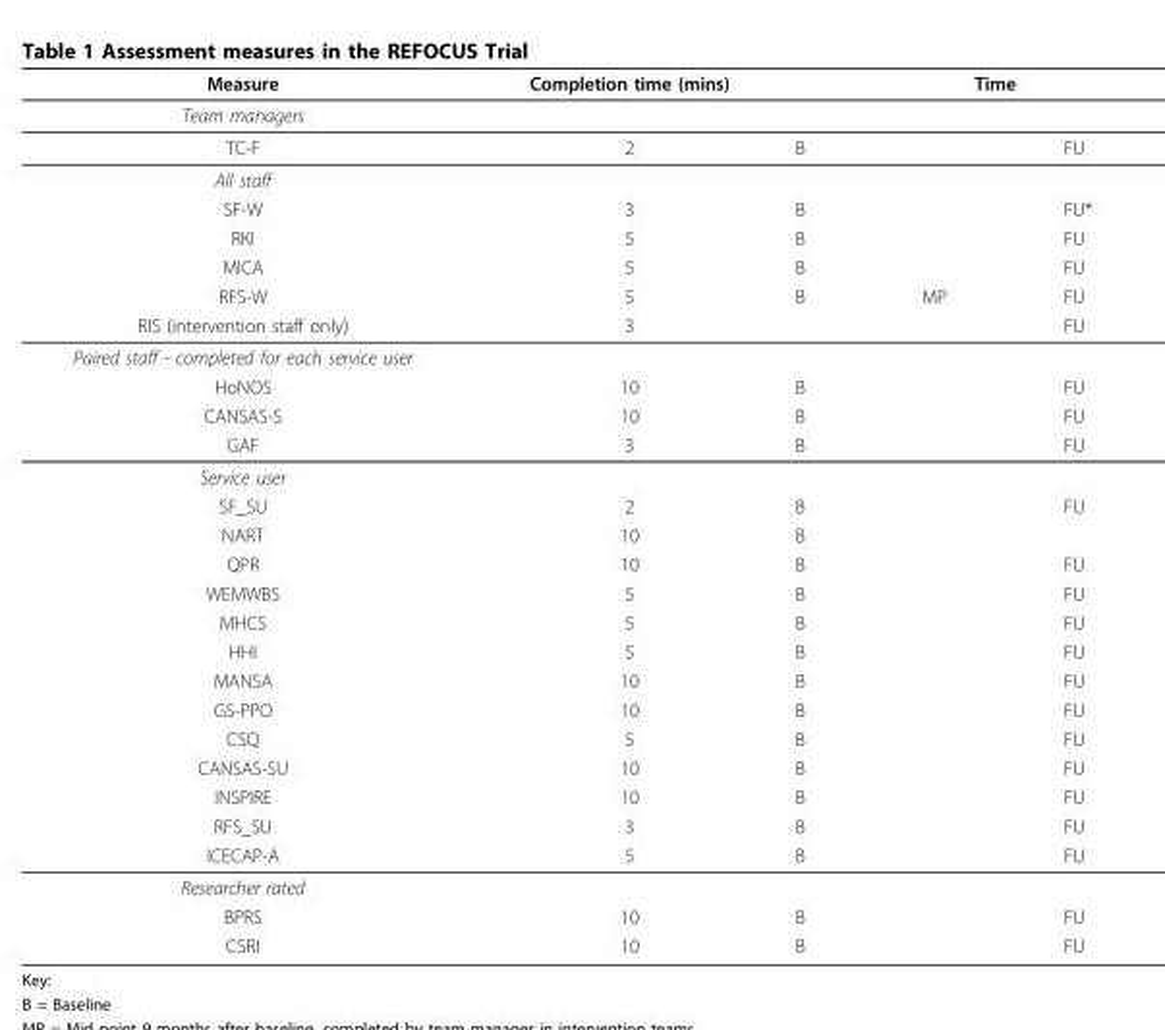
<table><thead><tr><td rowspan="2">Measure Team managers</td><td rowspan="2">Completion time (mins)</td><td colspan="3">Time</td></tr><tr><td></td><td></td><td></td></tr></thead><tbody><tr><td>TC-F</td><td>2</td><td>B</td><td></td><td>FU</td></tr><tr><td colspan="5">All staff</td></tr><tr><td>SF-W</td><td>3</td><td>B</td><td></td><td>FU*</td></tr><tr><td>RKI</td><td>5</td><td>B</td><td></td><td>FU</td></tr><tr><td>MICA</td><td>5</td><td>B</td><td></td><td>FU</td></tr><tr><td>RFS-W</td><td>5</td><td>B</td><td>MP</td><td>FU</td></tr><tr><td>RIS (intervention staff only)</td><td>3</td><td></td><td></td><td>FU</td></tr><tr><td colspan="5">Paired staff - completed for each service user</td></tr><tr><td>HoNOS</td><td>10</td><td>B</td><td></td><td>FU</td></tr><tr><td>CANSAS-S</td><td>10</td><td>B</td><td></td><td>FU</td></tr><tr><td>GAF</td><td>3</td><td>B</td><td></td><td>FU</td></tr><tr><td colspan="5">Service user</td></tr><tr><td>SF_SU</td><td>2</td><td>B</td><td></td><td>FU</td></tr><tr><td>NART</td><td>10</td><td>B</td><td></td><td></td></tr><tr><td>QPR</td><td>10</td><td>B</td><td></td><td>FU</td></tr><tr><td>WEMWBS</td><td>5</td><td>B</td><td></td><td>FU</td></tr><tr><td>MHCS</td><td>5</td><td>B</td><td></td><td>FU</td></tr><tr><td>HHI</td><td>5</td><td>B</td><td></td><td>FU</td></tr><tr><td>MANSA</td><td>10</td><td>B</td><td></td><td>FU</td></tr><tr><td>GS-PPO</td><td>10</td><td>B</td><td></td><td>FU</td></tr><tr><td>CSQ</td><td>5</td><td>B</td><td></td><td>FU</td></tr><tr><td>CANSAS-SU</td><td>10</td><td>B</td><td></td><td>FU</td></tr><tr><td>INSPIRE</td><td>10</td><td>B</td><td></td><td>FU</td></tr><tr><td>RFS_SU</td><td>3</td><td>B</td><td></td><td>FU</td></tr><tr><td>ICECAP-A</td><td>5</td><td>B</td><td></td><td>FU</td></tr><tr><td colspan="5">Researcher rated</td></tr><tr><td>BPRS</td><td>10</td><td>B</td><td></td><td>FU</td></tr><tr><td>CSRI</td><td>10</td><td>B</td><td></td><td>FU</td></tr></tbody></table>